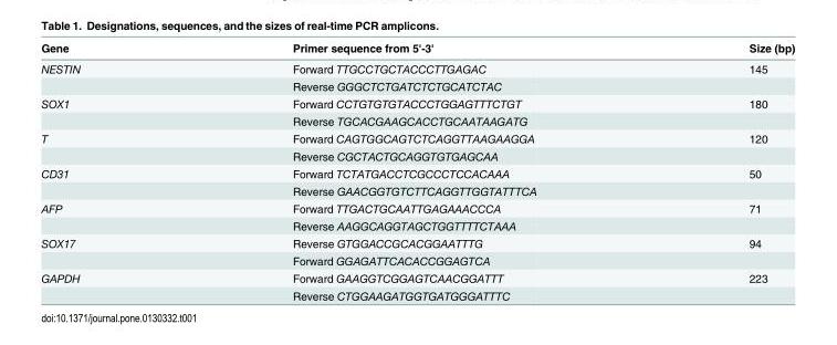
<table><thead><tr><td>Gene</td><td>Primer sequence from 5&#x27;-3&#x27;</td><td>Size (bp)</td></tr></thead><tbody><tr><td rowspan="2">NESTIN</td><td>Forward TTGCCTGCTACCCTTGAGAC</td><td>145</td></tr><tr><td>Reverse GGGCTCTGATCTCTGCATCTAC</td><td></td></tr><tr><td rowspan="2">SOX1</td><td>Forward CCTGTGTGTACCCTGGAGTTTCTGT</td><td>180</td></tr><tr><td>Reverse TGCACGAAGCACCTGCAATAAGATG</td><td></td></tr><tr><td rowspan="2">T</td><td>Forward CAGTGGCAGTCTCAGGTTAAGAAGGA</td><td>120</td></tr><tr><td>Reverse CGCTACTGCAGGTGTGAGCAA</td><td></td></tr><tr><td rowspan="2">CD31</td><td>Forward TCTATGACCTCGCCCTCCACAAA</td><td>50</td></tr><tr><td>Reverse GAACGGTGTCTTCAGGTTGGTATTTCA</td><td></td></tr><tr><td rowspan="2">AFP</td><td>Forward TTGACTGCAATTGAGAAACCCA</td><td>71</td></tr><tr><td>Reverse AAGGCAGGTAGCTGGTTTTCTAAA</td><td></td></tr><tr><td rowspan="2">SOX17</td><td>Reverse GTGGACCGCACGGAATTTG</td><td>94</td></tr><tr><td>Forward GGAGATTCACACCGGAGTCA</td><td></td></tr><tr><td rowspan="2">GAPDH</td><td>Forward GAAGGTCGGAGTCAACGGATTT</td><td>223</td></tr><tr><td>Reverse CTGGAAGATGGTGATGGGATTTC</td><td></td></tr></tbody></table>